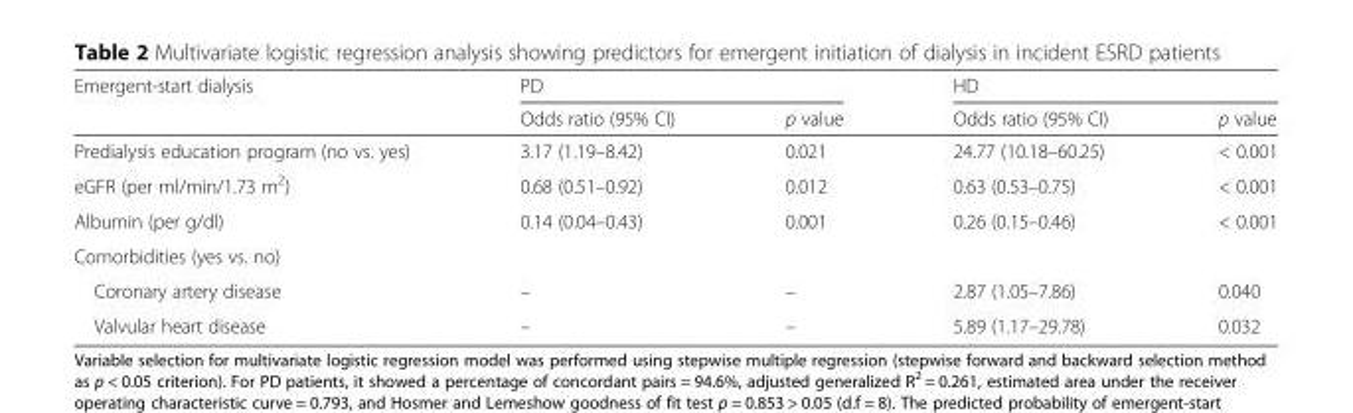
<table><thead><tr><td rowspan="2">Emergent-start dialysis</td><td colspan="2">PD</td><td colspan="2">HD</td></tr><tr><td>Odds ratio (95% CI)</td><td>p value</td><td>Odds ratio (95% CI)</td><td>p value</td></tr></thead><tbody><tr><td>Predialysis education program (no vs. yes)</td><td>3.17 (1.19–8.42)</td><td>0.021</td><td>24.77 (10.18–60.25)</td><td>&lt; 0.001</td></tr><tr><td>eGFR (per ml/min/1.73 m<sup>2</sup>)</td><td>0.68 (0.51–0.92)</td><td>0.012</td><td>0.63 (0.53–0.75)</td><td>&lt; 0.001</td></tr><tr><td>Albumin (per g/dl)</td><td>0.14 (0.04–0.43)</td><td>0.001</td><td>0.26 (0.15–0.46)</td><td>&lt; 0.001</td></tr><tr><td colspan="5">Comorbidities (yes vs. no)</td></tr><tr><td>Coronary artery disease</td><td>–</td><td>–</td><td>2.87 (1.05–7.86)</td><td>0.040</td></tr><tr><td>Valvular heart disease</td><td>–</td><td>–</td><td>5.89 (1.17–29.78)</td><td>0.032</td></tr></tbody></table>